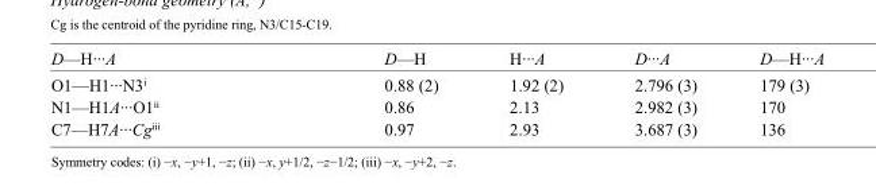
<table><tbody><tr><td>D—H···A</td><td>D—H</td><td>H···A</td><td>D···A</td><td>D—H···A</td></tr><tr><td>O1—H1···N3<sup>i</sup></td><td>0.88 (2)</td><td>1.92 (2)</td><td>2.796 (3)</td><td>179 (3)</td></tr><tr><td>N1—H1A···O1<sup>ii</sup></td><td>0.86</td><td>2.13</td><td>2.982 (3)</td><td>170</td></tr><tr><td>C7—H7A···Cg<sup>iii</sup></td><td>0.97</td><td>2.93</td><td>3.687 (3)</td><td>136</td></tr></tbody></table>